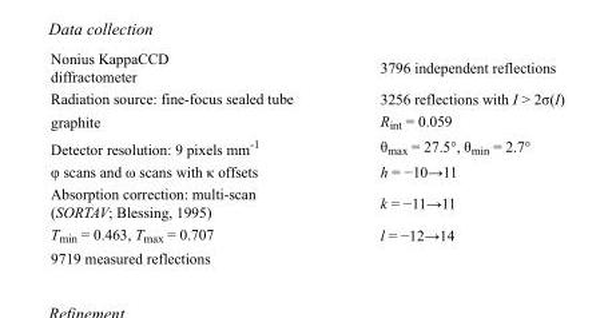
<table><tbody><tr><td>Nonius KappaCCD diffractometer</td><td>3796 independent reflections</td></tr><tr><td>Radiation source: fine-focus sealed tube</td><td>3256 reflections with I &gt; 2σ(I)</td></tr><tr><td>graphite</td><td>R<sub>int</sub> = 0.059</td></tr><tr><td>Detector resolution: 9 pixels mm<sup>-1</sup></td><td>θ<sub>max</sub> = 27.5°, θ<sub>min</sub> = 2.7°</td></tr><tr><td>φ scans and ω scans with κ offsets</td><td>h = −10→11</td></tr><tr><td>Absorption correction: multi-scan (SORTAV; Blessing, 1995)</td><td>k = −11→11</td></tr><tr><td>T<sub>min</sub> = 0.463, T<sub>max</sub> = 0.707</td><td>l = −12→14</td></tr><tr><td>9719 measured reflections</td><td></td></tr></tbody></table>